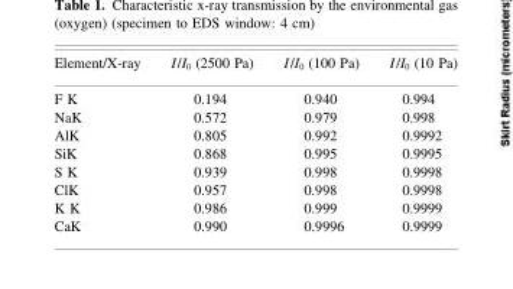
<table><thead><tr><td>Element/X-ray</td><td>I/I<sub>0</sub> (2500 Pa)</td><td>I/I<sub>0</sub> (100 Pa)</td><td>I/I<sub>0</sub> (10 Pa)</td></tr></thead><tbody><tr><td>F K</td><td>0.194</td><td>0.940</td><td>0.994</td></tr><tr><td>NaK</td><td>0.572</td><td>0.979</td><td>0.998</td></tr><tr><td>AlK</td><td>0.805</td><td>0.992</td><td>0.9992</td></tr><tr><td>SiK</td><td>0.868</td><td>0.995</td><td>0.9995</td></tr><tr><td>S K</td><td>0.939</td><td>0.998</td><td>0.9998</td></tr><tr><td>ClK</td><td>0.957</td><td>0.998</td><td>0.9998</td></tr><tr><td>K K</td><td>0.986</td><td>0.999</td><td>0.9999</td></tr><tr><td>CaK</td><td>0.990</td><td>0.9996</td><td>0.9999</td></tr></tbody></table>